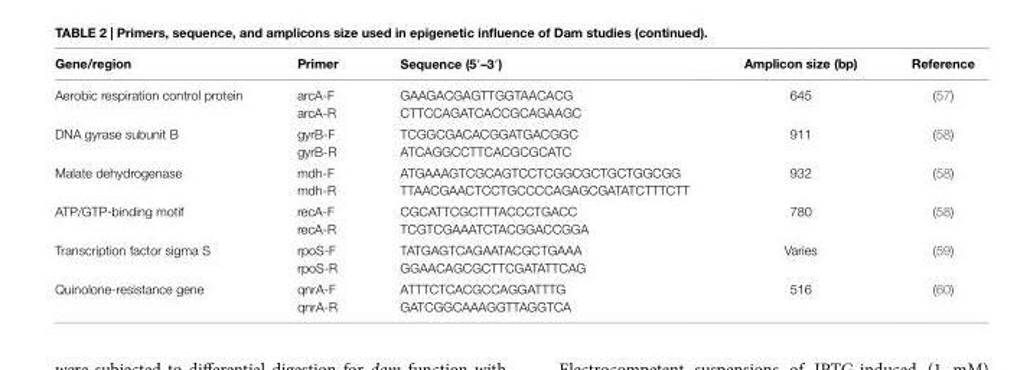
<table><thead><tr><td>gene/region</td><td>Primer</td><td>sequence (5′–3′)</td><td>amplicon size (bp)</td><td>reference</td></tr></thead><tbody><tr><td rowspan="2">Aerobic respiration control protein</td><td>arcA-F</td><td>GAAGACGAGTTGGTAACACG</td><td rowspan="2">645</td><td rowspan="2">(57)</td></tr><tr><td>arcA-R</td><td>CTTCCAGATCACCGCAGAAGC</td></tr><tr><td rowspan="2">DNA gyrase subunit B</td><td>gyrB-F</td><td>TCGGCGACACGGATGACGGC</td><td rowspan="2">911</td><td rowspan="2">(58)</td></tr><tr><td>gyrB-R</td><td>ATCAGGCCTTCACGCGCATC</td></tr><tr><td rowspan="2">Malate dehydrogenase</td><td>mdh-F</td><td>ATGAAAGTCGCAGTCCTCGGCGCTGCTGGCGG</td><td rowspan="2">932</td><td rowspan="2">(58)</td></tr><tr><td>mdh-R</td><td>TTAACGAACTCCTGCCCCAGAGCGATATCTTTCTT</td></tr><tr><td rowspan="2">ATP/GTP-binding motif</td><td>recA-F</td><td>CGCATTCGCTTTACCCTGACC</td><td rowspan="2">780</td><td rowspan="2">(58)</td></tr><tr><td>recA-R</td><td>TCGTCGAAATCTACGGACCGGA</td></tr><tr><td rowspan="2">Transcription factor sigma S</td><td>rpoS-F</td><td>TATGAGTCAGAATACGCTGAAA</td><td rowspan="2">Varies</td><td rowspan="2">(59)</td></tr><tr><td>rpoS-R</td><td>GGAACAGCGCTTCGATATTCAG</td></tr><tr><td rowspan="2">Quinolone-resistance gene</td><td>qnrA-F</td><td>ATTTCTCACGCCAGGATTTG</td><td rowspan="2">516</td><td rowspan="2">(60)</td></tr><tr><td>qnrA-R</td><td>GATCGGCAAAGGTTAGGTCA</td></tr></tbody></table>